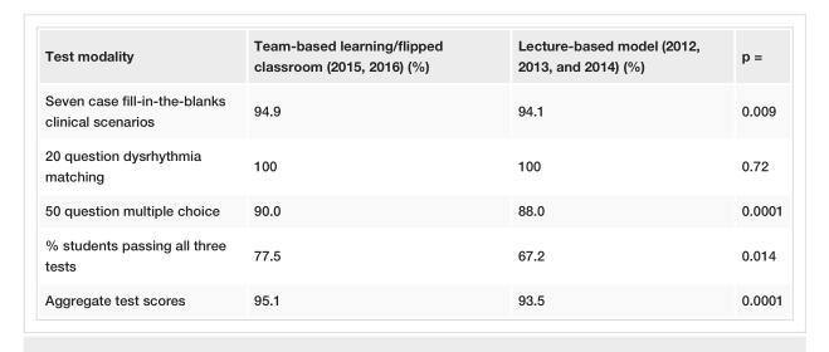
<table><tbody><tr><td>Test modality</td><td>Team-based learning/flipped classroom (2015, 2016) (%)</td><td>Lecture-based model (2012, 2013, and 2014) (%)</td><td>p =</td></tr><tr><td>Seven case fill-in-the-blanks clinical scenarios</td><td>94.9</td><td>94.1</td><td>0.009</td></tr><tr><td>20 question dysrhythmia matching</td><td>100</td><td>100</td><td>0.72</td></tr><tr><td>50 question multiple choice</td><td>90.0</td><td>88.0</td><td>0.0001</td></tr><tr><td>% students passing all three tests</td><td>77.5</td><td>67.2</td><td>0.014</td></tr><tr><td>Aggregate test scores</td><td>95.1</td><td>93.5</td><td>0.0001</td></tr></tbody></table>